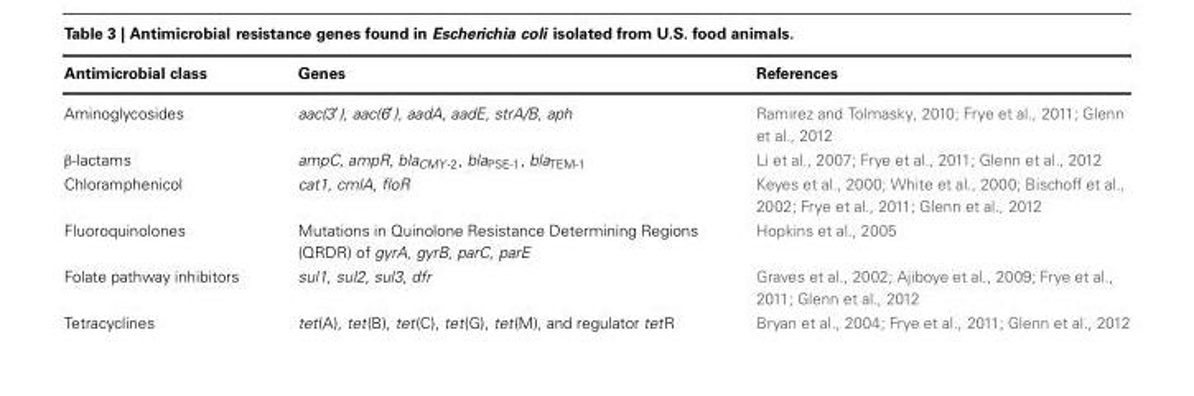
<table><thead><tr><td>Antimicrobial class</td><td>Genes</td><td>References</td></tr></thead><tbody><tr><td>Aminoglycosides</td><td>aac(3′), aac(6′), aadA, aadE, strA/B, aph</td><td>Ramirez and Tolmasky, 2010; Frye et al., 2011; Glenn et al., 2012</td></tr><tr><td>β-lactams</td><td>ampC, ampR, bla<sub>CMY-2</sub>, bla<sub>PSE-1</sub>, bla<sub>TEM-1</sub></td><td>Li et al., 2007; Frye et al., 2011; Glenn et al., 2012</td></tr><tr><td>Chloramphenicol</td><td>cat1, cmlA, floR</td><td>Keyes et al., 2000; White et al., 2000; Bischoff et al., 2002; Frye et al., 2011; Glenn et al., 2012</td></tr><tr><td>Fluoroquinolones</td><td>Mutations in Quinolone Resistance Determining Regions (QRDR) of gyrA, gyrB, parC, parE</td><td>Hopkins et al., 2005</td></tr><tr><td>Folate pathway inhibitors</td><td>sul1, sul2, sul3, dfr</td><td>Graves et al., 2002; Ajiboye et al., 2009; Frye et al., 2011; Glenn et al., 2012</td></tr><tr><td>Tetracyclines</td><td>tet(A), tet(B), tet(C), tet(G), tet(M), and regulator tetR</td><td>Bryan et al., 2004; Frye et al., 2011; Glenn et al., 2012</td></tr></tbody></table>